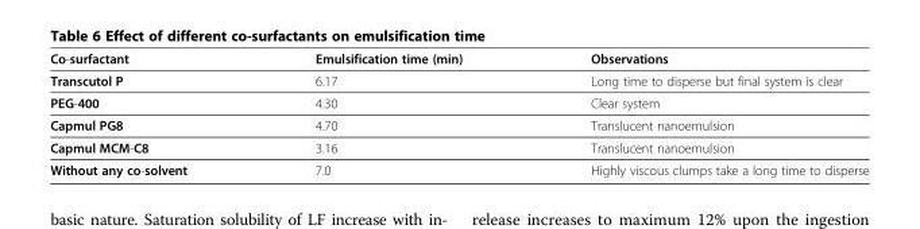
<table><thead><tr><td>Co-surfactant</td><td>Emulsification time (min)</td><td>Observations</td></tr></thead><tbody><tr><td>Transcutol P</td><td>6.17</td><td>Long time to disperse but final system is clear</td></tr><tr><td>PEG-400</td><td>4.30</td><td>Clear system</td></tr><tr><td>Capmul PG8</td><td>4.70</td><td>Translucent nanoemulsion</td></tr><tr><td>Capmul MCM-C8</td><td>3.16</td><td>Translucent nanoemulsion</td></tr><tr><td>Without any co-solvent</td><td>7.0</td><td>Highly viscous clumps take a long time to disperse</td></tr></tbody></table>